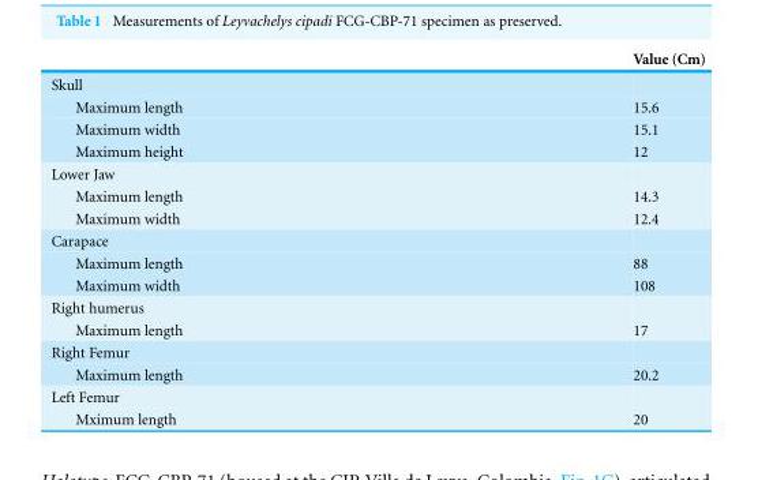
<table><thead><tr><td></td><td>Value (Cm)</td></tr></thead><tbody><tr><td colspan="2">Skull</td></tr><tr><td>Maximum length</td><td>15.6</td></tr><tr><td>Maximum width</td><td>15.1</td></tr><tr><td>Maximum height</td><td>12</td></tr><tr><td colspan="2">Lower Jaw</td></tr><tr><td>Maximum length</td><td>14.3</td></tr><tr><td>Maximum width</td><td>12.4</td></tr><tr><td colspan="2">Carapace</td></tr><tr><td>Maximum length</td><td>88</td></tr><tr><td>Maximum width</td><td>108</td></tr><tr><td colspan="2">Right humerus</td></tr><tr><td>Maximum length</td><td>17</td></tr><tr><td colspan="2">Right Femur</td></tr><tr><td>Maximum length</td><td>20.2</td></tr><tr><td colspan="2">Left Femur</td></tr><tr><td>Mximum length</td><td>20</td></tr></tbody></table>